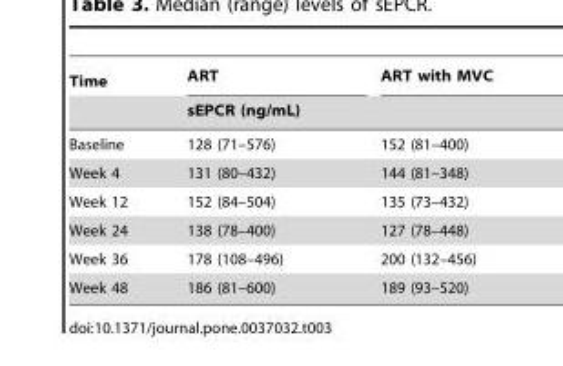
<table><thead><tr><td rowspan="2">Time</td><td>ART</td><td>ART with MVC</td></tr><tr><td colspan="2">sEPCR (ng/mL)</td></tr></thead><tbody><tr><td>Baseline</td><td>128 (71–576)</td><td>152 (81–400)</td></tr><tr><td>Week 4</td><td>131 (80–432)</td><td>144 (81–348)</td></tr><tr><td>Week 12</td><td>152 (84–504)</td><td>135 (73–432)</td></tr><tr><td>Week 24</td><td>138 (78–400)</td><td>127 (78–448)</td></tr><tr><td>Week 36</td><td>178 (108–496)</td><td>200 (132–456)</td></tr><tr><td>Week 48</td><td>186 (81–600)</td><td>189 (93–520)</td></tr></tbody></table>